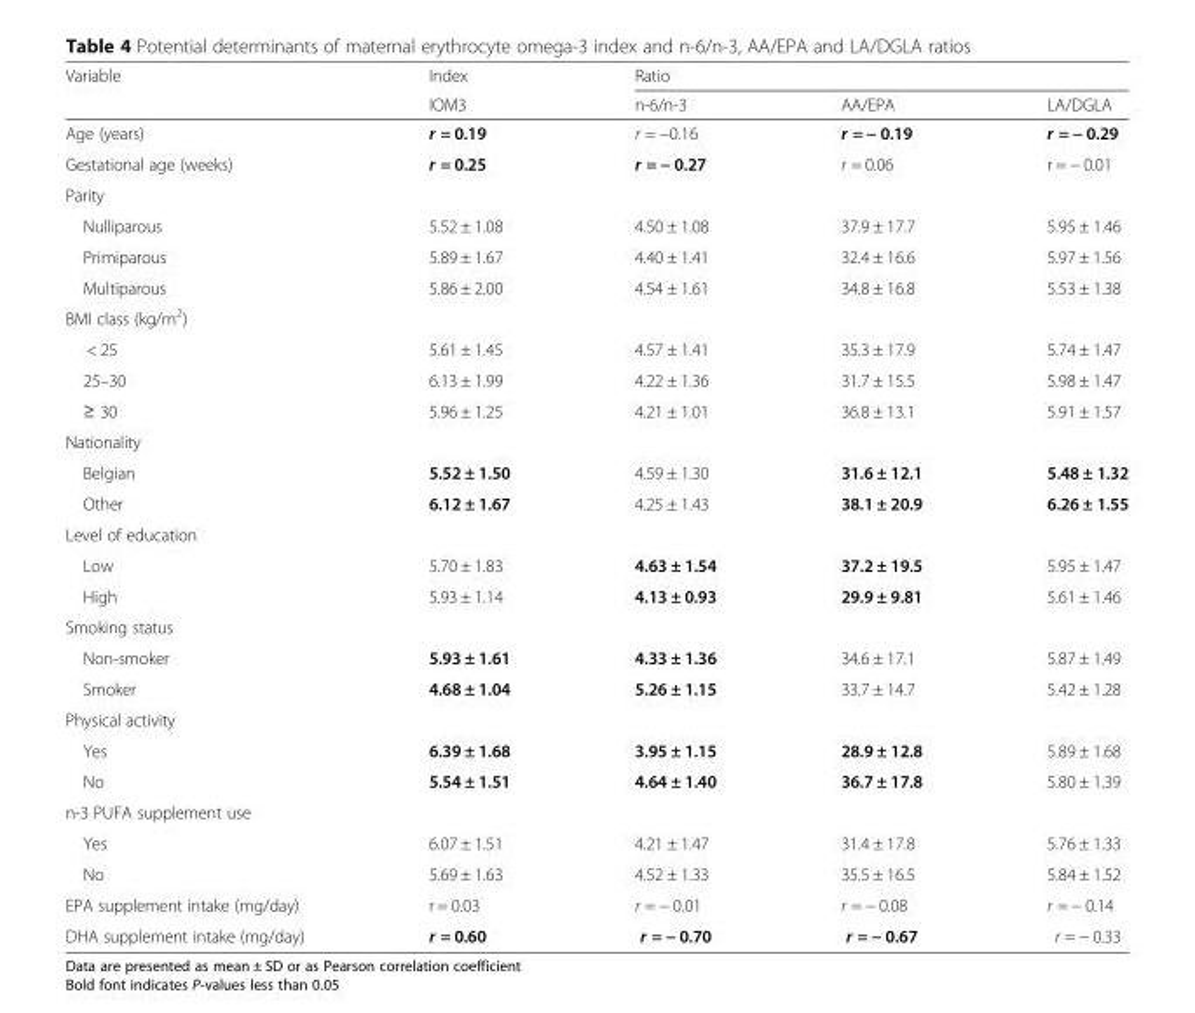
<table><thead><tr><td rowspan="2">Variable</td><td rowspan="2">Index IOM3</td><td colspan="3">Ratio</td></tr><tr><td>n-6/n-3</td><td>AA/EPA</td><td>LA/DGLA</td></tr></thead><tbody><tr><td>Age (years)</td><td>r = 0.19</td><td>r = −0.16</td><td>r = − 0.19</td><td>r = − 0.29</td></tr><tr><td>Gestational age (weeks)</td><td>r = 0.25</td><td>r = − 0.27</td><td>r = 0.06</td><td>r = − 0.01</td></tr><tr><td colspan="5">Parity</td></tr><tr><td>Nulliparous</td><td>5.52 ± 1.08</td><td>4.50 ± 1.08</td><td>37.9 ± 17.7</td><td>5.95 ± 1.46</td></tr><tr><td>Primiparous</td><td>5.89 ± 1.67</td><td>4.40 ± 1.41</td><td>32.4 ± 16.6</td><td>5.97 ± 1.56</td></tr><tr><td>Multiparous</td><td>5.86 ± 2.00</td><td>4.54 ± 1.61</td><td>34.8 ± 16.8</td><td>5.53 ± 1.38</td></tr><tr><td colspan="5">BMI class (kg/m<sup>2</sup>)</td></tr><tr><td>&lt; 25</td><td>5.61 ± 1.45</td><td>4.57 ± 1.41</td><td>35.3 ± 17.9</td><td>5.74 ± 1.47</td></tr><tr><td>25–30</td><td>6.13 ± 1.99</td><td>4.22 ± 1.36</td><td>31.7 ± 15.5</td><td>5.98 ± 1.47</td></tr><tr><td>≥ 30</td><td>5.96 ± 1.25</td><td>4.21 ± 1.01</td><td>36.8 ± 13.1</td><td>5.91 ± 1.57</td></tr><tr><td colspan="5">Nationality</td></tr><tr><td>Belgian</td><td>5.52 ± 1.50</td><td>4.59 ± 1.30</td><td>31.6 ± 12.1</td><td>5.48 ± 1.32</td></tr><tr><td>Other</td><td>6.12 ± 1.67</td><td>4.25 ± 1.43</td><td>38.1 ± 20.9</td><td>6.26 ± 1.55</td></tr><tr><td colspan="5">Level of education</td></tr><tr><td>Low</td><td>5.70 ± 1.83</td><td>4.63 ± 1.54</td><td>37.2 ± 19.5</td><td>5.95 ± 1.47</td></tr><tr><td>High</td><td>5.93 ± 1.14</td><td>4.13 ± 0.93</td><td>29.9 ± 9.81</td><td>5.61 ± 1.46</td></tr><tr><td colspan="5">Smoking status</td></tr><tr><td>Non-smoker</td><td>5.93 ± 1.61</td><td>4.33 ± 1.36</td><td>34.6 ± 17.1</td><td>5.87 ± 1.49</td></tr><tr><td>Smoker</td><td>4.68 ± 1.04</td><td>5.26 ± 1.15</td><td>33.7 ± 14.7</td><td>5.42 ± 1.28</td></tr><tr><td colspan="5">Physical activity</td></tr><tr><td>Yes</td><td>6.39 ± 1.68</td><td>3.95 ± 1.15</td><td>28.9 ± 12.8</td><td>5.89 ± 1.68</td></tr><tr><td>No</td><td>5.54 ± 1.51</td><td>4.64 ± 1.40</td><td>36.7 ± 17.8</td><td>5.80 ± 1.39</td></tr><tr><td colspan="5">n-3 PUFA supplement use</td></tr><tr><td>Yes</td><td>6.07 ± 1.51</td><td>4.21 ± 1.47</td><td>31.4 ± 17.8</td><td>5.76 ± 1.33</td></tr><tr><td>No</td><td>5.69 ± 1.63</td><td>4.52 ± 1.33</td><td>35.5 ± 16.5</td><td>5.84 ± 1.52</td></tr><tr><td>EPA supplement intake (mg/day)</td><td>r = 0.03</td><td>r = − 0.01</td><td>r = − 0.08</td><td>r = − 0.14</td></tr><tr><td>DHA supplement intake (mg/day)</td><td>r = 0.60</td><td>r = − 0.70</td><td>r = − 0.67</td><td>r = − 0.33</td></tr></tbody></table>